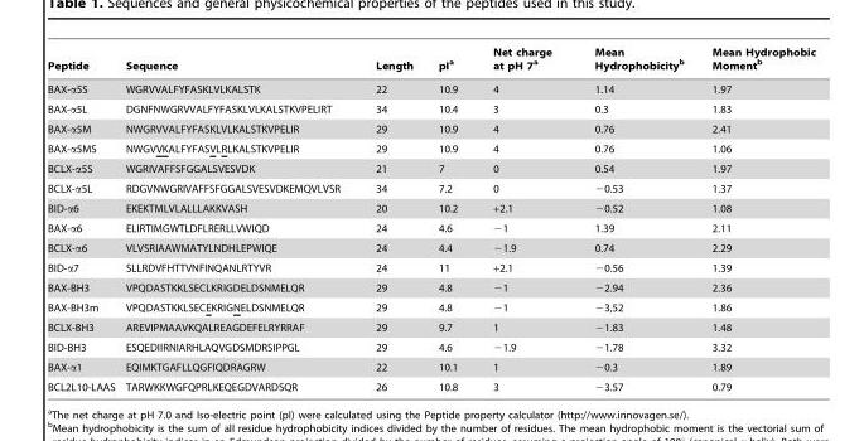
<table><thead><tr><td>Peptide</td><td>Sequence</td><td>Length</td><td>pI<sup>a</sup></td><td>Net charge at pH 7<sup>a</sup></td><td>Mean Hydrophobicity<sup>b</sup></td><td>Mean Hydrophobic Moment<sup>b</sup></td></tr></thead><tbody><tr><td>BAX-α5S</td><td>WGRVVALFYFASKLVLKALSTK</td><td>22</td><td>10.9</td><td>4</td><td>1.14</td><td>1.97</td></tr><tr><td>BAX-α5L</td><td>DGNFNWGRVVALFYFASKLVLKALSTKVPELIRT</td><td>34</td><td>10.4</td><td>3</td><td>0.3</td><td>1.83</td></tr><tr><td>BAX-α5M</td><td>NWGRVVALFYFASKLVLKALSTKVPELIR</td><td>29</td><td>10.9</td><td>4</td><td>0.76</td><td>2.41</td></tr><tr><td>BAX-α5MS</td><td>NWGVVKALFYFASVLRLKALSTKVPELIR</td><td>29</td><td>10.9</td><td>4</td><td>0.76</td><td>1.06</td></tr><tr><td>BCLX-α5S</td><td>WGRIVAFFSFGGALSVESVDK</td><td>21</td><td>7</td><td>0</td><td>0.54</td><td>1.97</td></tr><tr><td>BCLX-α5L</td><td>RDGVNWGRIVAFFSFGGALSVESVDKEMQVLVSR</td><td>34</td><td>7.2</td><td>0</td><td>−0.53</td><td>1.37</td></tr><tr><td>BID-α6</td><td>EKEKTMLVLALLLAKKVASH</td><td>20</td><td>10.2</td><td>+2.1</td><td>−0.52</td><td>1.08</td></tr><tr><td>BAX-α6</td><td>ELIRTIMGWTLDFLRERLLVWIQD</td><td>24</td><td>4.6</td><td>−1</td><td>1.39</td><td>2.11</td></tr><tr><td>BCLX-α6</td><td>VLVSRIAAWMATYLNDHLEPWIQE</td><td>24</td><td>4.4</td><td>−1.9</td><td>0.74</td><td>2.29</td></tr><tr><td>BID-α7</td><td>SLLRDVFHTTVNFINQANLRTYVR</td><td>24</td><td>11</td><td>+2.1</td><td>−0.56</td><td>1.39</td></tr><tr><td>BAX-BH3</td><td>VPQDASTKKLSECLKRIGDELDSNMELQR</td><td>29</td><td>4.8</td><td>−1</td><td>−2.94</td><td>2.36</td></tr><tr><td>BAX-BH3m</td><td>VPQDASTKKLSECEKRIGNELDSNMELQR</td><td>29</td><td>4.8</td><td>−1</td><td>−3,52</td><td>1.86</td></tr><tr><td>BCLX-BH3</td><td>AREVIPMAAVKQALREAGDEFELRYRRAF</td><td>29</td><td>9.7</td><td>1</td><td>−1.83</td><td>1.48</td></tr><tr><td>BID-BH3</td><td>ESQEDIIRNIARHLAQVGDSMDRSIPPGL</td><td>29</td><td>4.6</td><td>−1.9</td><td>−1.78</td><td>3.32</td></tr><tr><td>BAX-α1</td><td>EQIMKTGAFLLQGFIQDRAGRW</td><td>22</td><td>10.1</td><td>1</td><td>−0.3</td><td>1.89</td></tr><tr><td>BCL2L10-LAAS</td><td>TARWKKWGFQPRLKEQEGDVARDSQR</td><td>26</td><td>10.8</td><td>3</td><td>−3.57</td><td>0.79</td></tr></tbody></table>